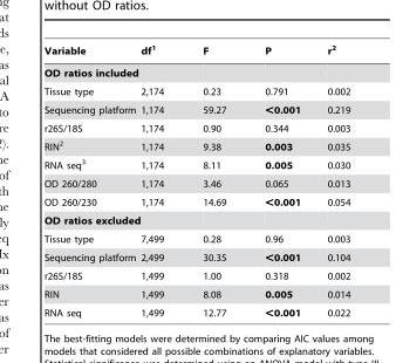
<table><thead><tr><td>Variable</td><td>df<sup>1</sup></td><td>F</td><td>P</td><td>r<sup>2</sup></td></tr></thead><tbody><tr><td colspan="5">OD ratios included</td></tr><tr><td>Tissue type</td><td>2,174</td><td>0.23</td><td>0.791</td><td>0.002</td></tr><tr><td>Sequencing platform</td><td>1,174</td><td>59.27</td><td>&lt;0.001</td><td>0.219</td></tr><tr><td>r26S/18S</td><td>1,174</td><td>0.90</td><td>0.344</td><td>0.003</td></tr><tr><td>RIN<sup>2</sup></td><td>1,174</td><td>9.38</td><td>0.003</td><td>0.035</td></tr><tr><td>RNA seq<sup>3</sup></td><td>1,174</td><td>8.11</td><td>0.005</td><td>0.030</td></tr><tr><td>OD 260/280</td><td>1,174</td><td>3.46</td><td>0.065</td><td>0.013</td></tr><tr><td>OD 260/230</td><td>1,174</td><td>14.69</td><td>&lt;0.001</td><td>0.054</td></tr><tr><td colspan="5">OD ratios excluded</td></tr><tr><td>Tissue type</td><td>7,499</td><td>0.28</td><td>0.96</td><td>0.003</td></tr><tr><td>Sequencing platform</td><td>2,499</td><td>30.35</td><td>&lt;0.001</td><td>0.104</td></tr><tr><td>r26S/18S</td><td>1,499</td><td>1.00</td><td>0.318</td><td>0.002</td></tr><tr><td>RIN</td><td>1,499</td><td>8.08</td><td>0.005</td><td>0.014</td></tr><tr><td>RNA seq</td><td>1,499</td><td>12.77</td><td>&lt;0.001</td><td>0.022</td></tr></tbody></table>